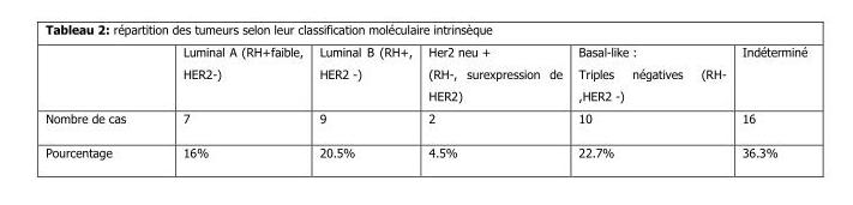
<table><thead><tr><td></td><td>Luminal A (RH+faible, HER2-)</td><td>Luminal B (RH+, HER2 -)</td><td>Her2 neu + (RH-, surexpression de HER2)</td><td>Basal-like : Triples négatives (RH- ,HER2 -)</td><td>Indéterminé</td></tr></thead><tbody><tr><td>Nombre de cas</td><td>7</td><td>9</td><td>2</td><td>10</td><td>16</td></tr><tr><td>Pourcentage</td><td>16%</td><td>20.5%</td><td>4.5%</td><td>22.7%</td><td>36.3%</td></tr></tbody></table>